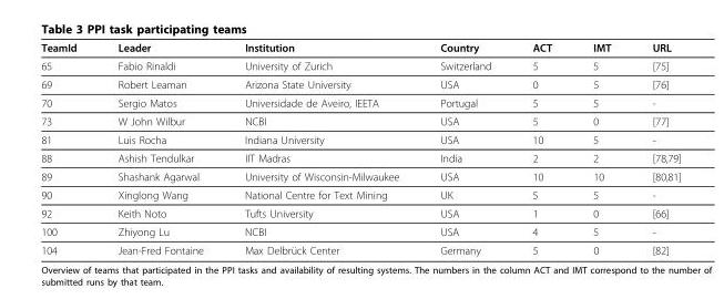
<table><thead><tr><td>TeamId</td><td>Leader</td><td>Institution</td><td>Country</td><td>ACT</td><td>IMT</td><td>URL</td></tr></thead><tbody><tr><td>65</td><td>Fabio Rinaldi</td><td>University of Zurich</td><td>Switzerland</td><td>5</td><td>5</td><td>[75]</td></tr><tr><td>69</td><td>Robert Leaman</td><td>Arizona State University</td><td>USA</td><td>0</td><td>5</td><td>[76]</td></tr><tr><td>70</td><td>Sergio Matos</td><td>Universidade de Aveiro, IEETA</td><td>Portugal</td><td>5</td><td>5</td><td>-</td></tr><tr><td>73</td><td>W John Wilbur</td><td>NCBI</td><td>USA</td><td>5</td><td>0</td><td>[77]</td></tr><tr><td>81</td><td>Luis Rocha</td><td>Indiana University</td><td>USA</td><td>10</td><td>5</td><td>-</td></tr><tr><td>88</td><td>Ashish Tendulkar</td><td>IIT Madras</td><td>India</td><td>2</td><td>2</td><td>[78,79]</td></tr><tr><td>89</td><td>Shashank Agarwal</td><td>University of Wisconsin-Milwaukee</td><td>USA</td><td>10</td><td>10</td><td>[80,81]</td></tr><tr><td>90</td><td>Xinglong Wang</td><td>National Centre for Text Mining</td><td>UK</td><td>5</td><td>5</td><td>-</td></tr><tr><td>92</td><td>Keith Noto</td><td>Tufts University</td><td>USA</td><td>1</td><td>0</td><td>[66]</td></tr><tr><td>100</td><td>Zhiyong Lu</td><td>NCBI</td><td>USA</td><td>4</td><td>5</td><td>-</td></tr><tr><td>104</td><td>Jean-Fred Fontaine</td><td>Max Delbrück Center</td><td>Germany</td><td>5</td><td>0</td><td>[82]</td></tr></tbody></table>